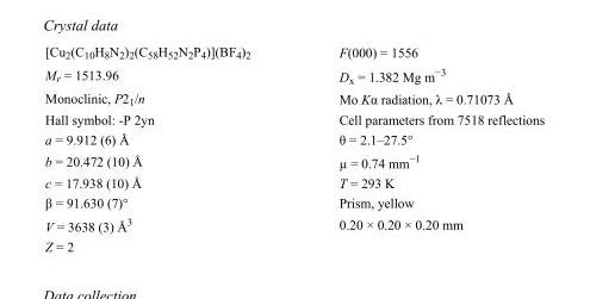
<table><tbody><tr><td>[Cu<sub>2</sub>(C<sub>10</sub>H<sub>8</sub>N<sub>2</sub>)<sub>2</sub>(C<sub>58</sub>H<sub>52</sub>N<sub>2</sub>P<sub>4</sub>)](BF<sub>4</sub>)<sub>2</sub></td><td>F(000) = 1556</td></tr><tr><td>M<sub>r</sub> = 1513.96</td><td>D<sub>x</sub> = 1.382 Mg m<sup>−3</sup></td></tr><tr><td>Monoclinic, P2<sub>1</sub>/n</td><td>Mo Kα radiation, λ = 0.71073 Å</td></tr><tr><td>Hall symbol: -P 2yn</td><td>Cell parameters from 7518 reflections</td></tr><tr><td>a = 9.912 (6) Å</td><td>θ = 2.1–27.5°</td></tr><tr><td>b = 20.472 (10) Å</td><td>µ = 0.74 mm<sup>−1</sup></td></tr><tr><td>c = 17.938 (10) Å</td><td>T = 293 K</td></tr><tr><td>β = 91.630 (7)°</td><td>Prism, yellow</td></tr><tr><td>V = 3638 (3) Å<sup>3</sup></td><td>0.20 × 0.20 × 0.20 mm</td></tr><tr><td>Z = 2</td><td></td></tr></tbody></table>